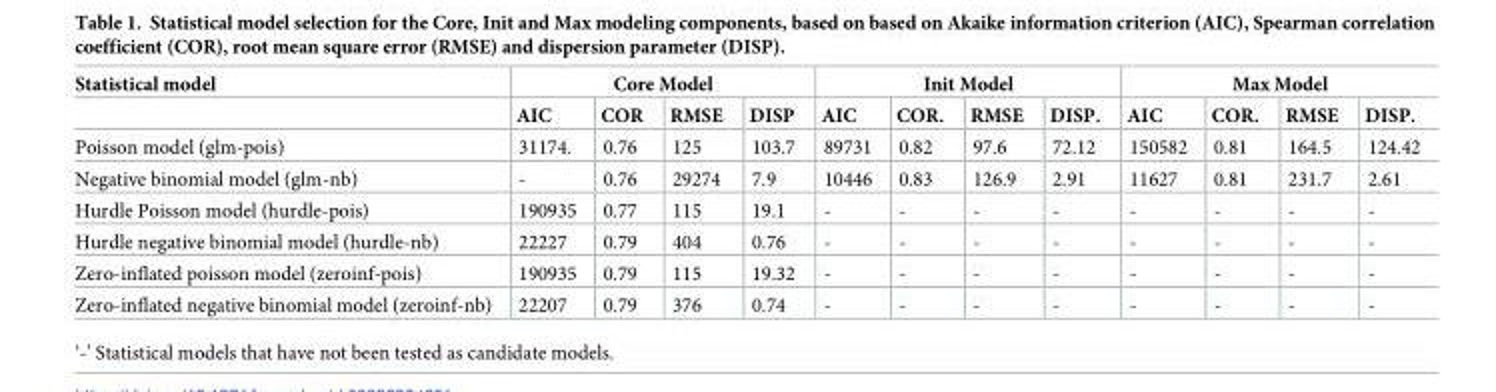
<table><thead><tr><td rowspan="2">Statistical model</td><td colspan="4">Core Model</td><td colspan="4">Init Model</td><td colspan="4">Max Model</td></tr><tr><td>AIC</td><td>COR</td><td>RMSE</td><td>DISP</td><td>AIC</td><td>COR.</td><td>RMSE</td><td>DISP.</td><td>AIC</td><td>COR.</td><td>RMSE</td><td>DISP.</td></tr></thead><tbody><tr><td>Poisson model (glm-pois)</td><td>31174.</td><td>0.76</td><td>125</td><td>103.7</td><td>89731</td><td>0.82</td><td>97.6</td><td>72.12</td><td>150582</td><td>0.81</td><td>164.5</td><td>124.42</td></tr><tr><td>Negative binomial model (glm-nb)</td><td>-</td><td>0.76</td><td>29274</td><td>7.9</td><td>10446</td><td>0.83</td><td>126.9</td><td>2.91</td><td>11627</td><td>0.81</td><td>231.7</td><td>2.61</td></tr><tr><td>Hurdle Poisson model (hurdle-pois)</td><td>190935</td><td>0.77</td><td>115</td><td>19.1</td><td>-</td><td>-</td><td>-</td><td>-</td><td>-</td><td>-</td><td>-</td><td>-</td></tr><tr><td>Hurdle negative binomial model (hurdle-nb)</td><td>22227</td><td>0.79</td><td>404</td><td>0.76</td><td>-</td><td>-</td><td>-</td><td>-</td><td>-</td><td>-</td><td>-</td><td>-</td></tr><tr><td>Zero-inflated poisson model (zeroinf-pois)</td><td>190935</td><td>0.79</td><td>115</td><td>19.32</td><td>-</td><td>-</td><td>-</td><td>-</td><td>-</td><td>-</td><td>-</td><td>-</td></tr><tr><td>Zero-inflated negative binomial model (zeroinf-nb)</td><td>22207</td><td>0.79</td><td>376</td><td>0.74</td><td>-</td><td>-</td><td>-</td><td>-</td><td>-</td><td>-</td><td>-</td><td>-</td></tr></tbody></table>